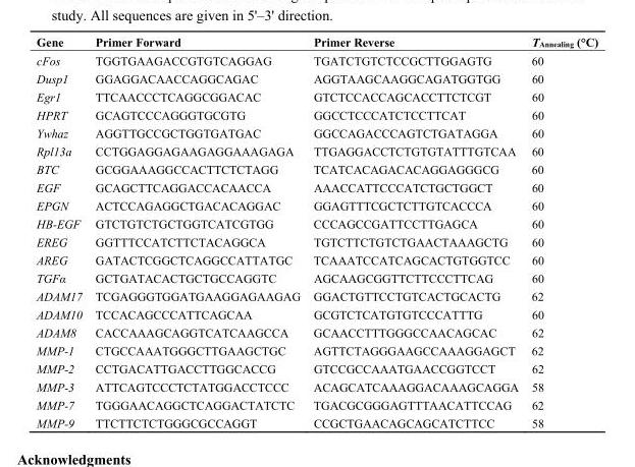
<table><thead><tr><td>Gene</td><td>Primer Forward</td><td>Primer Reverse</td><td>T<sub>Annealing</sub> (°C)</td></tr></thead><tbody><tr><td>cFos</td><td>TGGTGAAGACCGTGTCAGGAG</td><td>TGATCTGTCTCCGCTTGGAGTG</td><td>60</td></tr><tr><td>Dusp1</td><td>GGAGGACAACCAGGCAGAC</td><td>AGGTAAGCAAGGCAGATGGTGG</td><td>60</td></tr><tr><td>Egr1</td><td>TTCAACCCTCAGGCGGACAC</td><td>GTCTCCACCAGCACCTTCTCGT</td><td>60</td></tr><tr><td>HPRT</td><td>GCAGTCCCAGGGTGCGTG</td><td>GGCCTCCCATCTCCTTCAT</td><td>60</td></tr><tr><td>Ywhaz</td><td>AGGTTGCCGCTGGTGATGAC</td><td>GGCCAGACCCAGTCTGATAGGA</td><td>60</td></tr><tr><td>Rpl13a</td><td>CCTGGAGGAGAAGAGGAAAGAGA</td><td>TTGAGGACCTCTGTGTATTTGTCAA</td><td>60</td></tr><tr><td>BTC</td><td>GCGGAAAGGCCACTTCTCTAGG</td><td>TCATCACAGACACAGGAGGGCG</td><td>60</td></tr><tr><td>EGF</td><td>GCAGCTTCAGGACCACAACCA</td><td>AAACCATTCCCATCTGCTGGCT</td><td>60</td></tr><tr><td>EPGN</td><td>ACTCCAGAGGCTGACACAGGAC</td><td>GGAGTTTCGCTCTTGTCACCCA</td><td>60</td></tr><tr><td>HB-EGF</td><td>GTCTGTCTGCTGGTCATCGTGG</td><td>CCCAGCCGATTCCTTGAGCA</td><td>60</td></tr><tr><td>EREG</td><td>GGTTTCCATCTTCTACAGGCA</td><td>TGTCTTCTGTCTGAACTAAAGCTG</td><td>60</td></tr><tr><td>AREG</td><td>GATACTCGGCTCAGGCCATTATGC</td><td>TCAAATCCATCAGCACTGTGGTCC</td><td>60</td></tr><tr><td>TGFα</td><td>GCTGATACACTGCTGCCAGGTC</td><td>AGCAAGCGGTTCTTCCCTTCAG</td><td>60</td></tr><tr><td>ADAM17</td><td>TCGAGGGTGGATGAAGGAGAAGAG</td><td>GGACTGTTCCTGTCACTGCACTG</td><td>62</td></tr><tr><td>ADAM10</td><td>TCCACAGCCCATTCAGCAA</td><td>GCGTCTCATGTGTCCCATTTG</td><td>60</td></tr><tr><td>ADAM8</td><td>CACCAAAGCAGGTCATCAAGCCA</td><td>GCAACCTTTGGGCCAACAGCAC</td><td>62</td></tr><tr><td>MMP-1</td><td>CTGCCAAATGGGCTTGAAGCTGC</td><td>AGTTCTAGGGAAGCCAAAGGAGCT</td><td>62</td></tr><tr><td>MMP-2</td><td>CCTGACATTGACCTTGGCACCG</td><td>GTCCGCCAAATGAACCGGTCCT</td><td>62</td></tr><tr><td>MMP-3</td><td>ATTCAGTCCCTCTATGGACCTCCC</td><td>ACAGCATCAAAGGACAAAGCAGGA</td><td>58</td></tr><tr><td>MMP-7</td><td>TGGGAACAGGCTCAGGACTATCTC</td><td>TGACGCGGGAGTTTAACATTCCAG</td><td>62</td></tr><tr><td>MMP-9</td><td>TTCTTCTCTGGGCGCCAGGT</td><td>CCGCTGAACAGCAGCATCTTCC</td><td>58</td></tr></tbody></table>